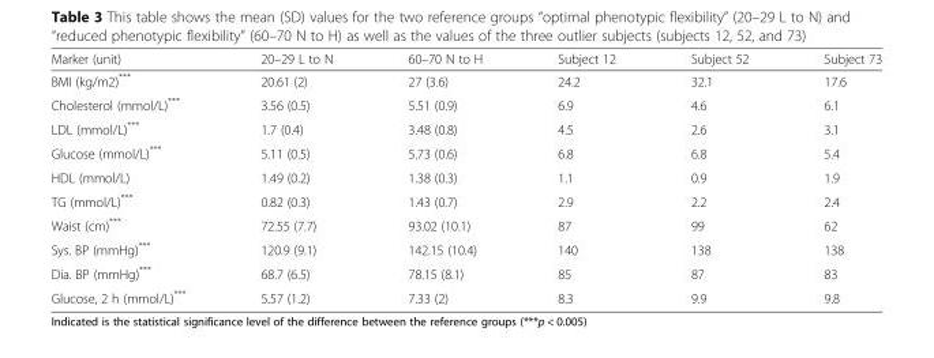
<table><thead><tr><td>Marker (unit)</td><td>20–29 L to N</td><td>60–70 N to H</td><td>Subject 12</td><td>Subject 52</td><td>Subject 73</td></tr></thead><tbody><tr><td>BMI (kg/m2)***</td><td>20.61 (2)</td><td>27 (3.6)</td><td>24.2</td><td>32.1</td><td>17.6</td></tr><tr><td>Cholesterol (mmol/L)***</td><td>3.56 (0.5)</td><td>5.51 (0.9)</td><td>6.9</td><td>4.6</td><td>6.1</td></tr><tr><td>LDL (mmol/L)***</td><td>1.7 (0.4)</td><td>3.48 (0.8)</td><td>4.5</td><td>2.6</td><td>3.1</td></tr><tr><td>Glucose (mmol/L)***</td><td>5.11 (0.5)</td><td>5.73 (0.6)</td><td>6.8</td><td>6.8</td><td>5.4</td></tr><tr><td>HDL (mmol/L)</td><td>1.49 (0.2)</td><td>1.38 (0.3)</td><td>1.1</td><td>0.9</td><td>1.9</td></tr><tr><td>TG (mmol/L)***</td><td>0.82 (0.3)</td><td>1.43 (0.7)</td><td>2.9</td><td>2.2</td><td>2.4</td></tr><tr><td>Waist (cm)***</td><td>72.55 (7.7)</td><td>93.02 (10.1)</td><td>87</td><td>99</td><td>62</td></tr><tr><td>Sys. BP (mmHg)***</td><td>120.9 (9.1)</td><td>142.15 (10.4)</td><td>140</td><td>138</td><td>138</td></tr><tr><td>Dia. BP (mmHg)***</td><td>68.7 (6.5)</td><td>78.15 (8.1)</td><td>85</td><td>87</td><td>83</td></tr><tr><td>Glucose, 2 h (mmol/L)***</td><td>5.57 (1.2)</td><td>7.33 (2)</td><td>8.3</td><td>9.9</td><td>9.8</td></tr></tbody></table>